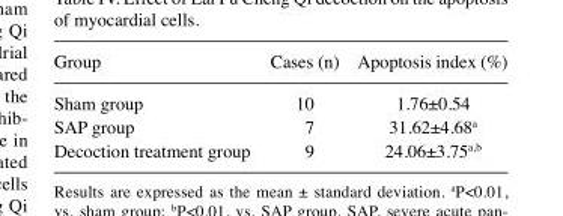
<table><thead><tr><td>Group</td><td>Cases (n)</td><td>Apoptosis index (%)</td></tr></thead><tbody><tr><td>Sham group</td><td>10</td><td>1.76±0.54</td></tr><tr><td>SAP group</td><td>7</td><td>31.62±4.68<sup>a</sup></td></tr><tr><td>Decoction treatment group</td><td>9</td><td>24.06±3.75<sup>a</sup>,<sup>b</sup></td></tr></tbody></table>